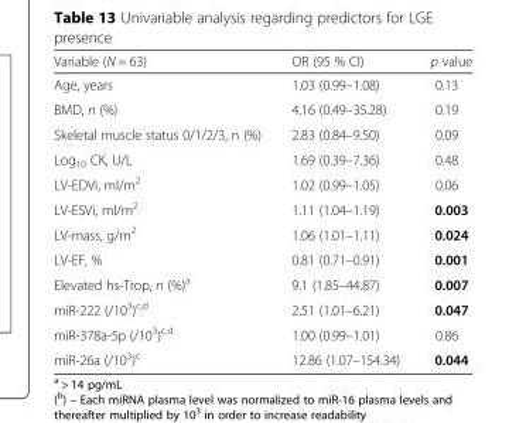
<table><thead><tr><td>Variable (N = 63)</td><td>OR (95 % CI)</td><td>p value</td></tr></thead><tbody><tr><td>Age, years</td><td>1.03 (0.99–1.08)</td><td>0.13</td></tr><tr><td>BMD, n (%)</td><td>4.16 (0.49–35.28)</td><td>0.19</td></tr><tr><td>Skeletal muscle status 0/1/2/3, n (%)</td><td>2.83 (0.84–9.50)</td><td>0.09</td></tr><tr><td>Log<sub>10</sub> CK, U/L</td><td>1.69 (0.39–7.36)</td><td>0.48</td></tr><tr><td>LV-EDVi, ml/m<sup>2</sup></td><td>1.02 (0.99–1.05)</td><td>0.06</td></tr><tr><td>LV-ESVi, ml/m<sup>2</sup></td><td>1.11 (1.04–1.19)</td><td>0.003</td></tr><tr><td>LV-mass, g/m<sup>2</sup></td><td>1.06 (1.01–1.11)</td><td>0.024</td></tr><tr><td>LV-EF, %</td><td>0.81 (0.71–0.91)</td><td>0.001</td></tr><tr><td>Elevated hs-Trop, n (%)<sup>a</sup></td><td>9.1 (1.85–44.87)</td><td>0.007</td></tr><tr><td>miR-222 (/10<sup>3</sup>)<sup>c,d</sup></td><td>2.51 (1.01–6.21)</td><td>0.047</td></tr><tr><td>miR-378a-5p (/10<sup>3</sup>)<sup>c,d</sup></td><td>1.00 (0.99–1.01)</td><td>0.86</td></tr><tr><td>miR-26a (/10<sup>3</sup>)<sup>c</sup></td><td>12.86 (1.07–154.34)</td><td>0.044</td></tr></tbody></table>